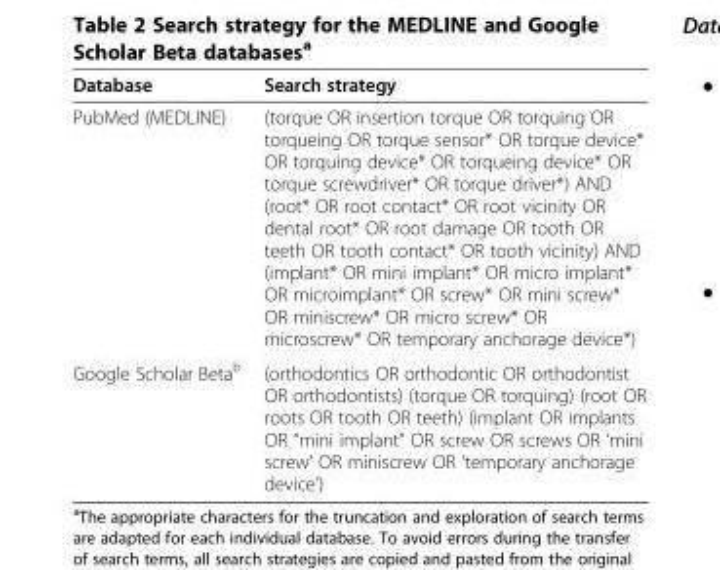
<table><thead><tr><td>Database</td><td>Search strategy</td></tr></thead><tbody><tr><td>PubMed (MEDLINE)</td><td>(torque OR insertion torque OR torquing OR torqueing OR torque sensor* OR torque device* OR torquing device* OR torqueing device* OR torque screwdriver* OR torque driver*) AND (root* OR root contact* OR root vicinity OR dental root* OR root damage OR tooth OR teeth OR tooth contact* OR tooth vicinity) AND (implant* OR mini implant* OR micro implant* OR microimplant* OR screw* OR mini screw* OR miniscrew* OR micro screw* OR microscrew* OR temporary anchorage device*)</td></tr><tr><td>Google Scholar Beta<sup>b</sup></td><td>(orthodontics OR orthodontic OR orthodontist OR orthodontists) (torque OR torquing) (root OR roots OR tooth OR teeth) (implant OR implants OR “mini implant” OR screw OR screws OR ‘mini screw’ OR miniscrew OR ‘temporary anchorage device’)</td></tr></tbody></table>